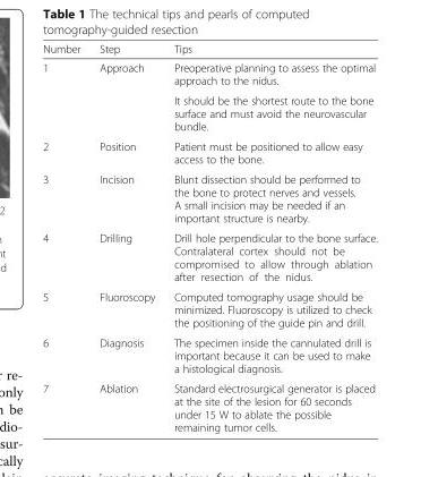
<table><thead><tr><td>Number</td><td>Step</td><td>Tips</td></tr></thead><tbody><tr><td rowspan="2">1</td><td rowspan="2">Approach</td><td>Preoperative planning to assess the optimal approach to the nidus.</td></tr><tr><td>It should be the shortest route to the bone surface and must avoid the neurovascular bundle.</td></tr><tr><td>2</td><td>Position</td><td>Patient must be positioned to allow easy access to the bone.</td></tr><tr><td>3</td><td>Incision</td><td>Blunt dissection should be performed to the bone to protect nerves and vessels. A small incision may be needed if an important structure is nearby.</td></tr><tr><td>4</td><td>Drilling</td><td>Drill hole perpendicular to the bone surface. Contralateral cortex should not be compromised to allow through ablation after resection of the nidus.</td></tr><tr><td>5</td><td>Fluoroscopy</td><td>Computed tomography usage should be minimized. Fluoroscopy is utilized to check the positioning of the guide pin and drill.</td></tr><tr><td>6</td><td>Diagnosis</td><td>The specimen inside the cannulated drill is important because it can be used to make a histological diagnosis.</td></tr><tr><td>7</td><td>Ablation</td><td>Standard electrosurgical generator is placed at the site of the lesion for 60 seconds under 15 W to ablate the possible remaining tumor cells.</td></tr></tbody></table>